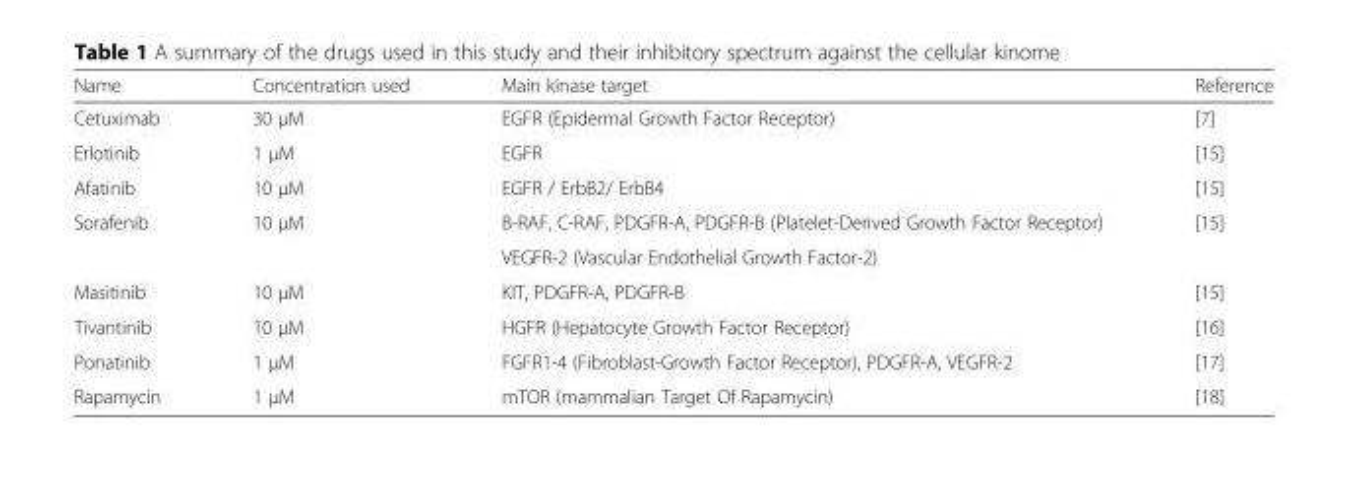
<table><thead><tr><td>Name</td><td>Concentration used</td><td>Main kinase target</td><td>Reference</td></tr></thead><tbody><tr><td>Cetuximab</td><td>30 μM</td><td>EGFR (Epidermal Growth Factor Receptor)</td><td>[7]</td></tr><tr><td>Erlotinib</td><td>1 μM</td><td>EGFR</td><td>[15]</td></tr><tr><td>Afatinib</td><td>10 μM</td><td>EGFR / ErbB2/ ErbB4</td><td>[15]</td></tr><tr><td rowspan="2">Sorafenib</td><td rowspan="2">10 μM</td><td>B-RAF, C-RAF, PDGFR-A, PDGFR-B (Platelet-Derived Growth Factor Receptor)</td><td rowspan="2">[15]</td></tr><tr><td>VEGFR-2 (Vascular Endothelial Growth Factor-2)</td></tr><tr><td>Masitinib</td><td>10 μM</td><td>KIT, PDGFR-A, PDGFR-B</td><td>[15]</td></tr><tr><td>Tivantinib</td><td>10 μM</td><td>HGFR (Hepatocyte Growth Factor Receptor)</td><td>[16]</td></tr><tr><td>Ponatinib</td><td>1 μM</td><td>FGFR1-4 (Fibroblast-Growth Factor Receptor), PDGFR-A, VEGFR-2</td><td>[17]</td></tr><tr><td>Rapamycin</td><td>1 μM</td><td>mTOR (mammalian Target Of Rapamycin)</td><td>[18]</td></tr></tbody></table>